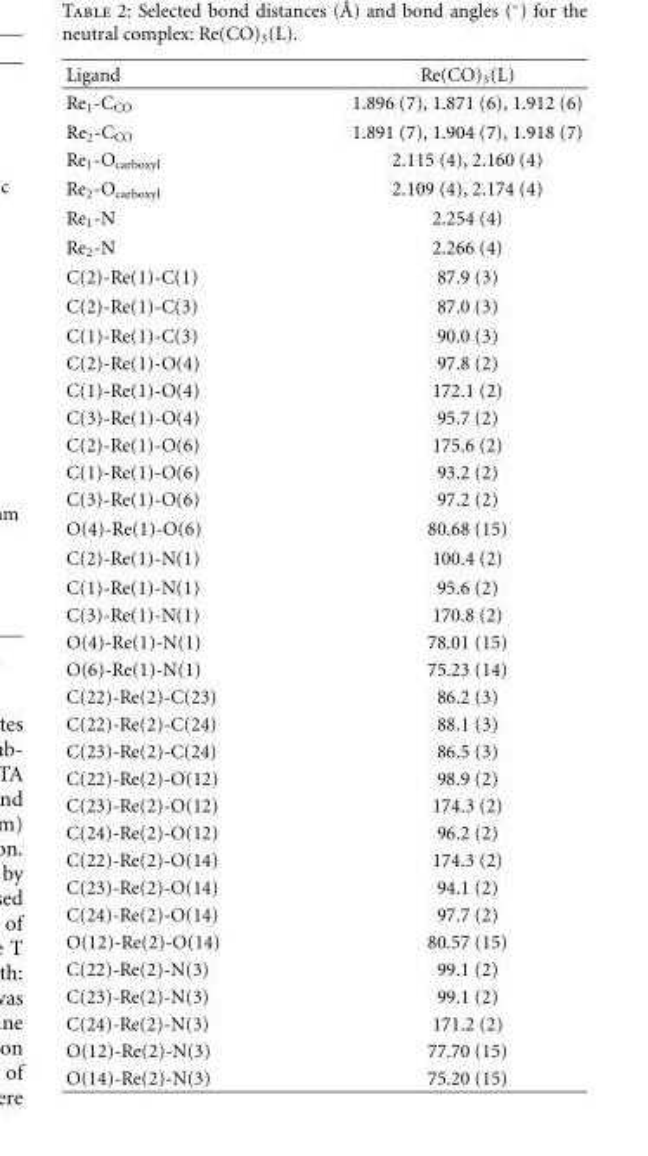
<table><thead><tr><td>Ligand</td><td>Re(CO)<sub>3</sub>(L)</td></tr></thead><tbody><tr><td>Re<sub>1</sub>-C<sub>CO</sub></td><td>1.896 (7), 1.871 (6), 1.912 (6)</td></tr><tr><td>Re<sub>2</sub>-C<sub>CO</sub></td><td>1.891 (7), 1.904 (7), 1.918 (7)</td></tr><tr><td>Re<sub>1</sub>-O<sub>carboxyl</sub></td><td>2.115 (4), 2.160 (4)</td></tr><tr><td>Re<sub>2</sub>-O<sub>carboxyl</sub></td><td>2.109 (4), 2.174 (4)</td></tr><tr><td>Re<sub>1</sub>-N</td><td>2.254 (4)</td></tr><tr><td>Re<sub>2</sub>-N</td><td>2.266 (4)</td></tr><tr><td>C(2)-Re(1)-C(1)</td><td>87.9 (3)</td></tr><tr><td>C(2)-Re(1)-C(3)</td><td>87.0 (3)</td></tr><tr><td>C(1)-Re(1)-C(3)</td><td>90.0 (3)</td></tr><tr><td>C(2)-Re(1)-O(4)</td><td>97.8 (2)</td></tr><tr><td>C(1)-Re(1)-O(4)</td><td>172.1 (2)</td></tr><tr><td>C(3)-Re(1)-O(4)</td><td>95.7 (2)</td></tr><tr><td>C(2)-Re(1)-O(6)</td><td>175.6 (2)</td></tr><tr><td>C(1)-Re(1)-O(6)</td><td>93.2 (2)</td></tr><tr><td>C(3)-Re(1)-O(6)</td><td>97.2 (2)</td></tr><tr><td>O(4)-Re(1)-O(6)</td><td>80.68 (15)</td></tr><tr><td>C(2)-Re(1)-N(1)</td><td>100.4 (2)</td></tr><tr><td>C(1)-Re(1)-N(1)</td><td>95.6 (2)</td></tr><tr><td>C(3)-Re(1)-N(1)</td><td>170.8 (2)</td></tr><tr><td>O(4)-Re(1)-N(1)</td><td>78.01 (15)</td></tr><tr><td>O(6)-Re(1)-N(1)</td><td>75.23 (14)</td></tr><tr><td>C(22)-Re(2)-C(23)</td><td>86.2 (3)</td></tr><tr><td>C(22)-Re(2)-C(24)</td><td>88.1 (3)</td></tr><tr><td>C(23)-Re(2)-C(24)</td><td>86.5 (3)</td></tr><tr><td>C(22)-Re(2)-O(12)</td><td>98.9 (2)</td></tr><tr><td>C(23)-Re(2)-O(12)</td><td>174.3 (2)</td></tr><tr><td>C(24)-Re(2)-O(12)</td><td>96.2 (2)</td></tr><tr><td>C(22)-Re(2)-O(14)</td><td>174.3 (2)</td></tr><tr><td>C(23)-Re(2)-O(14)</td><td>94.1 (2)</td></tr><tr><td>C(24)-Re(2)-O(14)</td><td>97.7 (2)</td></tr><tr><td>O(12)-Re(2)-O(14)</td><td>80.57 (15)</td></tr><tr><td>C(22)-Re(2)-N(3)</td><td>99.1 (2)</td></tr><tr><td>C(23)-Re(2)-N(3)</td><td>99.1 (2)</td></tr><tr><td>C(24)-Re(2)-N(3)</td><td>171.2 (2)</td></tr><tr><td>O(12)-Re(2)-N(3)</td><td>77.70 (15)</td></tr><tr><td>O(14)-Re(2)-N(3)</td><td>75.20 (15)</td></tr></tbody></table>